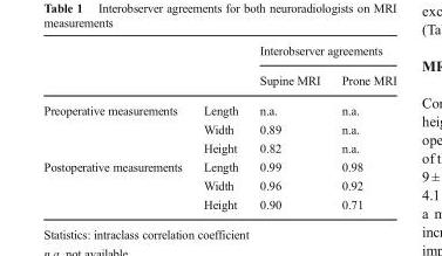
<table><thead><tr><td rowspan="2"></td><td rowspan="2"></td><td colspan="2">Interobserver agreements</td></tr><tr><td>Supine MRI</td><td>Prone MRI</td></tr></thead><tbody><tr><td rowspan="3">Preoperative measurements</td><td>Length</td><td>n.a.</td><td>n.a.</td></tr><tr><td>Width</td><td>0.89</td><td>n.a.</td></tr><tr><td>Height</td><td>0.82</td><td>n.a.</td></tr><tr><td rowspan="3">Postoperative measurements</td><td>Length</td><td>0.99</td><td>0.98</td></tr><tr><td>Width</td><td>0.96</td><td>0.92</td></tr><tr><td>Height</td><td>0.90</td><td>0.71</td></tr></tbody></table>